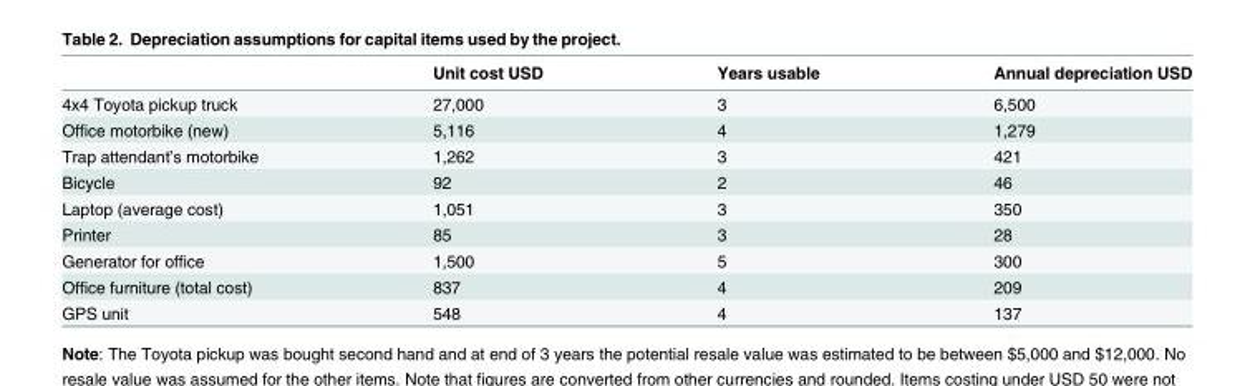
<table><thead><tr><td></td><td>Unit cost USD</td><td>Years usable</td><td>Annual depreciation USD</td></tr></thead><tbody><tr><td>4x4 Toyota pickup truck</td><td>27,000</td><td>3</td><td>6,500</td></tr><tr><td>Office motorbike (new)</td><td>5,116</td><td>4</td><td>1,279</td></tr><tr><td>Trap attendant’s motorbike</td><td>1,262</td><td>3</td><td>421</td></tr><tr><td>Bicycle</td><td>92</td><td>2</td><td>46</td></tr><tr><td>Laptop (average cost)</td><td>1,051</td><td>3</td><td>350</td></tr><tr><td>Printer</td><td>85</td><td>3</td><td>28</td></tr><tr><td>Generator for office</td><td>1,500</td><td>5</td><td>300</td></tr><tr><td>Office furniture (total cost)</td><td>837</td><td>4</td><td>209</td></tr><tr><td>GPS unit</td><td>548</td><td>4</td><td>137</td></tr></tbody></table>